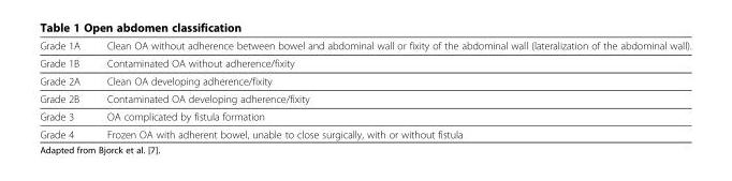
<table><tbody><tr><td>Grade 1A</td><td>Clean OA without adherence between bowel and abdominal wall or fixity of the abdominal wall (lateralization of the abdominal wall).</td></tr><tr><td>Grade 1B</td><td>Contaminated OA without adherence/fixity</td></tr><tr><td>Grade 2A</td><td>Clean OA developing adherence/fixity</td></tr><tr><td>Grade 2B</td><td>Contaminated OA developing adherence/fixity</td></tr><tr><td>Grade 3</td><td>OA complicated by fistula formation</td></tr><tr><td>Grade 4</td><td>Frozen OA with adherent bowel, unable to close surgically, with or without fistula</td></tr></tbody></table>